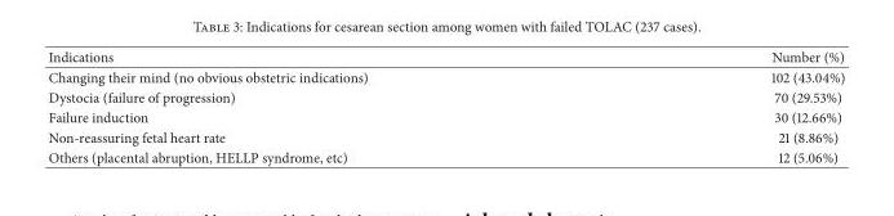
<table><thead><tr><td>Indications</td><td>Number (%)</td></tr></thead><tbody><tr><td>Changing their mind (no obvious obstetric indications)</td><td>102 (43.04%)</td></tr><tr><td>Dystocia (failure of progression)</td><td>70 (29.53%)</td></tr><tr><td>Failure induction</td><td>30 (12.66%)</td></tr><tr><td>Non-reassuring fetal heart rate</td><td>21 (8.86%)</td></tr><tr><td>Others (placental abruption, HELLP syndrome, etc)</td><td>12 (5.06%)</td></tr></tbody></table>